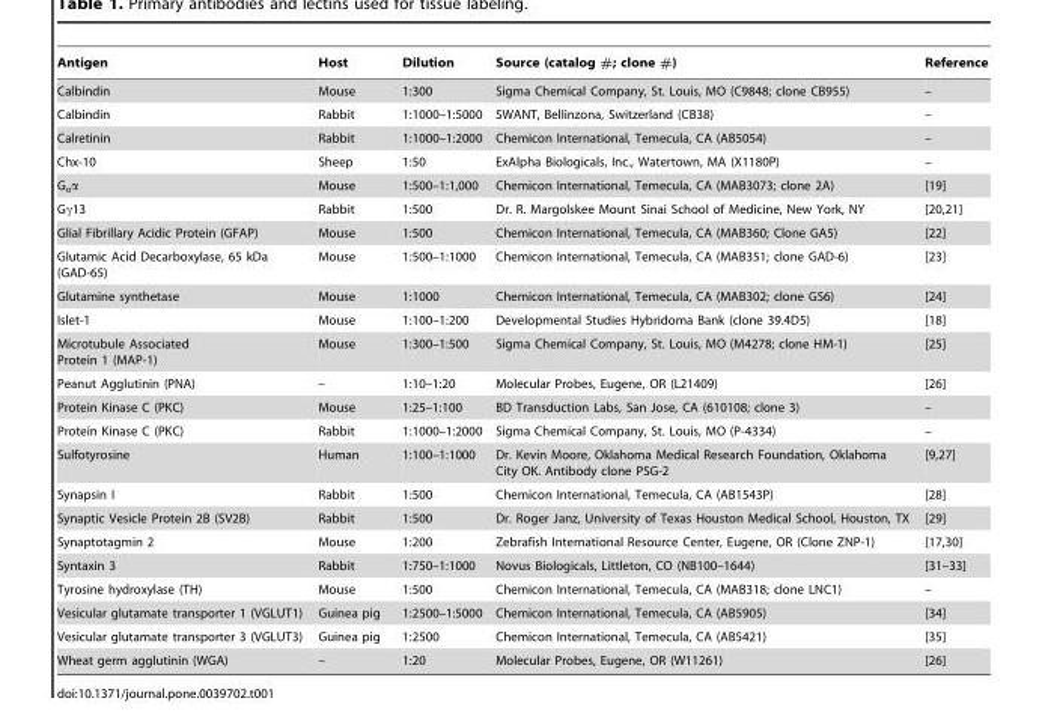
<table><thead><tr><td>Antigen</td><td>Host</td><td>Dilution</td><td>Source (catalog #; clone #)</td><td>Reference</td></tr></thead><tbody><tr><td>Calbindin</td><td>Mouse</td><td>1:300</td><td>Sigma Chemical Company, St. Louis, MO (C9848; clone CB955)</td><td>–</td></tr><tr><td>Calbindin</td><td>Rabbit</td><td>1:1000–1:5000</td><td>SWANT, Bellinzona, Switzerland (CB38)</td><td>–</td></tr><tr><td>Calretinin</td><td>Rabbit</td><td>1:1000–1:2000</td><td>Chemicon International, Temecula, CA (AB5054)</td><td>–</td></tr><tr><td>Chx-10</td><td>Sheep</td><td>1:50</td><td>ExAlpha Biologicals, Inc., Watertown, MA (X1180P)</td><td>–</td></tr><tr><td>G<sub>o</sub>α</td><td>Mouse</td><td>1:500–1:1,000</td><td>Chemicon International, Temecula, CA (MAB3073; clone 2A)</td><td>[19]</td></tr><tr><td>Gγ13</td><td>Rabbit</td><td>1:500</td><td>Dr. R. Margolskee Mount Sinai School of Medicine, New York, NY</td><td>[20,21]</td></tr><tr><td>Glial Fibrillary Acidic Protein (GFAP)</td><td>Mouse</td><td>1:500</td><td>Chemicon International, Temecula, CA (MAB360; Clone GA5)</td><td>[22]</td></tr><tr><td>Glutamic Acid Decarboxylase, 65 kDa (GAD-65)</td><td>Mouse</td><td>1:500–1:1000</td><td>Chemicon International, Temecula, CA (MAB351; clone GAD-6)</td><td>[23]</td></tr><tr><td>Glutamine synthetase</td><td>Mouse</td><td>1:1000</td><td>Chemicon International, Temecula, CA (MAB302; clone GS6)</td><td>[24]</td></tr><tr><td>Islet-1</td><td>Mouse</td><td>1:100–1:200</td><td>Developmental Studies Hybridoma Bank (clone 39.4D5)</td><td>[18]</td></tr><tr><td>Microtubule Associated Protein 1 (MAP-1)</td><td>Mouse</td><td>1:300–1:500</td><td>Sigma Chemical Company, St. Louis, MO (M4278; clone HM-1)</td><td>[25]</td></tr><tr><td>Peanut Agglutinin (PNA)</td><td>–</td><td>1:10–1:20</td><td>Molecular Probes, Eugene, OR (L21409)</td><td>[26]</td></tr><tr><td>Protein Kinase C (PKC)</td><td>Mouse</td><td>1:25–1:100</td><td>BD Transduction Labs, San Jose, CA (610108; clone 3)</td><td>–</td></tr><tr><td>Protein Kinase C (PKC)</td><td>Rabbit</td><td>1:1000–1:2000</td><td>Sigma Chemical Company, St. Louis, MO (P-4334)</td><td>–</td></tr><tr><td>Sulfotyrosine</td><td>Human</td><td>1:100–1:1000</td><td>Dr. Kevin Moore, Oklahoma Medical Research Foundation, Oklahoma City OK. Antibody clone PSG-2</td><td>[9,27]</td></tr><tr><td>Synapsin I</td><td>Rabbit</td><td>1:500</td><td>Chemicon International, Temecula, CA (AB1543P)</td><td>[28]</td></tr><tr><td>Synaptic Vesicle Protein 2B (SV2B)</td><td>Rabbit</td><td>1:500</td><td>Dr. Roger Janz, University of Texas Houston Medical School, Houston, TX</td><td>[29]</td></tr><tr><td>Synaptotagmin 2</td><td>Mouse</td><td>1:200</td><td>Zebrafish International Resource Center, Eugene, OR (Clone ZNP-1)</td><td>[17,30]</td></tr><tr><td>Syntaxin 3</td><td>Rabbit</td><td>1:750–1:1000</td><td>Novus Biologicals, Littleton, CO (NB100–1644)</td><td>[31–33]</td></tr><tr><td>Tyrosine hydroxylase (TH)</td><td>Mouse</td><td>1:500</td><td>Chemicon International, Temecula, CA (MAB318; clone LNC1)</td><td>–</td></tr><tr><td>Vesicular glutamate transporter 1 (VGLUT1)</td><td>Guinea pig</td><td>1:2500–1:5000</td><td>Chemicon International, Temecula, CA (AB5905)</td><td>[34]</td></tr><tr><td>Vesicular glutamate transporter 3 (VGLUT3)</td><td>Guinea pig</td><td>1:2500</td><td>Chemicon International, Temecula, CA (AB5421)</td><td>[35]</td></tr><tr><td>Wheat germ agglutinin (WGA)</td><td>–</td><td>1:20</td><td>Molecular Probes, Eugene, OR (W11261)</td><td>[26]</td></tr></tbody></table>